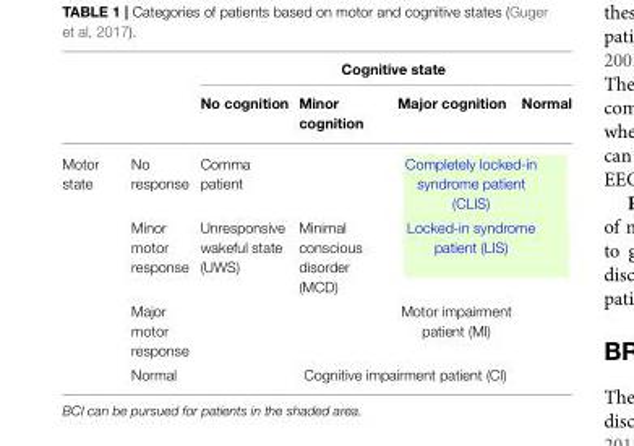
<table><thead><tr><td rowspan="2"></td><td rowspan="2"></td><td colspan="4">Cognitive state</td></tr><tr><td>No cognition</td><td>Minor cognition</td><td>Major cognition</td><td>Normal</td></tr></thead><tbody><tr><td rowspan="4">Motor state</td><td>No response</td><td>Comma patient</td><td></td><td colspan="2">Completely locked-in syndrome patient (CLIS)</td></tr><tr><td>Minor motor response</td><td>Unresponsive wakeful state (UWS)</td><td>Minimal conscious disorder (MCD)</td><td colspan="2">Locked-in syndrome patient (LIS)</td></tr><tr><td>Major motor response</td><td></td><td></td><td colspan="2">Motor impairment patient (MI)</td></tr><tr><td>Normal</td><td></td><td colspan="2">Cognitive impairment patient (CI)</td><td></td></tr></tbody></table>